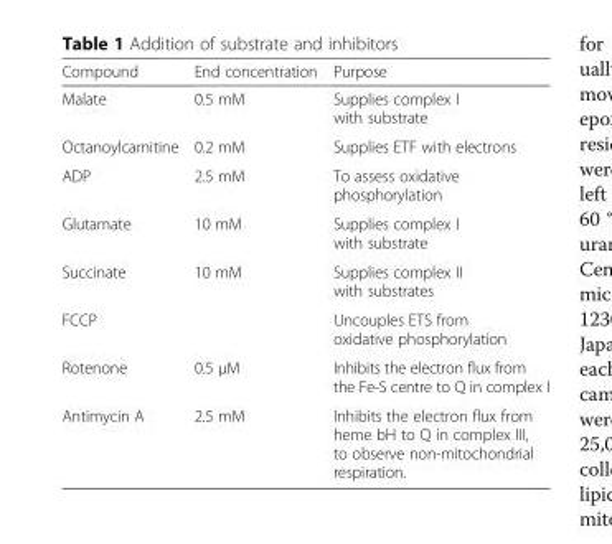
<table><thead><tr><td>Compound</td><td>End concentration</td><td>Purpose</td></tr></thead><tbody><tr><td>Malate</td><td>0.5 mM</td><td>Supplies complex I with substrate</td></tr><tr><td>Octanoylcarnitine</td><td>0.2 mM</td><td>Supplies ETF with electrons</td></tr><tr><td>ADP</td><td>2.5 mM</td><td>To assess oxidative phosphorylation</td></tr><tr><td>Glutamate</td><td>10 mM</td><td>Supplies complex I with substrate</td></tr><tr><td>Succinate</td><td>10 mM</td><td>Supplies complex II with substrates</td></tr><tr><td>FCCP</td><td></td><td>Uncouples ETS from oxidative phosphorylation</td></tr><tr><td>Rotenone</td><td>0.5 μM</td><td>Inhibits the electron flux from the Fe-S centre to Q in complex I</td></tr><tr><td>Antimycin A</td><td>2.5 mM</td><td>Inhibits the electron flux from heme bH to Q in complex III, to observe non-mitochondrial respiration.</td></tr></tbody></table>